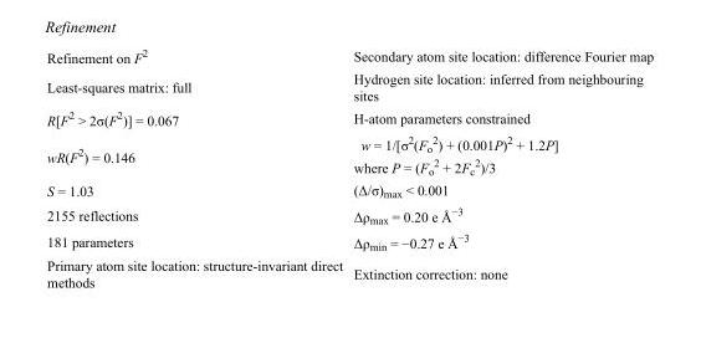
<table><tbody><tr><td>Refinement on F<sup>2</sup></td><td>Secondary atom site location: difference Fourier map</td></tr><tr><td>Least-squares matrix: full</td><td>Hydrogen site location: inferred from neighbouring sites</td></tr><tr><td>R[F<sup>2</sup> &gt; 2σ(F<sup>2</sup>)] = 0.067</td><td>H-atom parameters constrained</td></tr><tr><td>wR(F<sup>2</sup>) = 0.146</td><td>w = 1/[σ<sup>2</sup>(F<sub>o</sub> <sup>2</sup>) + (0.001P)<sup>2</sup> + 1.2P] where P = (F<sub>o</sub> <sup>2</sup> + 2F<sub>c</sub> <sup>2</sup>)/3</td></tr><tr><td>S = 1.03</td><td>(Δ/σ)<sub>max</sub> &lt; 0.001</td></tr><tr><td>2155 reflections</td><td>Δρ<sub>max</sub> = 0.20 e Å<sup>−3</sup></td></tr><tr><td>181 parameters</td><td>Δρ<sub>min</sub> = −0.27 e Å<sup>−3</sup></td></tr><tr><td>Primary atom site location: structure-invariant direct methods</td><td>Extinction correction: none</td></tr></tbody></table>